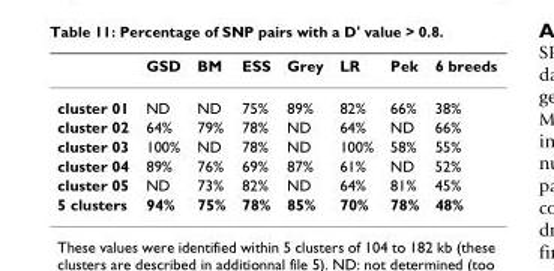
<table><thead><tr><td></td><td>GSD</td><td>BM</td><td>ESS</td><td>Grey</td><td>LR</td><td>Pek</td><td>6 breeds</td></tr></thead><tbody><tr><td>cluster 01</td><td>ND</td><td>ND</td><td>75%</td><td>89%</td><td>82%</td><td>66%</td><td>38%</td></tr><tr><td>cluster 02</td><td>64%</td><td>79%</td><td>78%</td><td>ND</td><td>64%</td><td>ND</td><td>66%</td></tr><tr><td>cluster 03</td><td>100%</td><td>ND</td><td>78%</td><td>ND</td><td>100%</td><td>58%</td><td>55%</td></tr><tr><td>cluster 04</td><td>89%</td><td>76%</td><td>69%</td><td>87%</td><td>61%</td><td>ND</td><td>52%</td></tr><tr><td>cluster 05</td><td>ND</td><td>73%</td><td>82%</td><td>ND</td><td>64%</td><td>81%</td><td>45%</td></tr><tr><td>5 clusters</td><td>94%</td><td>75%</td><td>78%</td><td>85%</td><td>70%</td><td>78%</td><td>48%</td></tr></tbody></table>